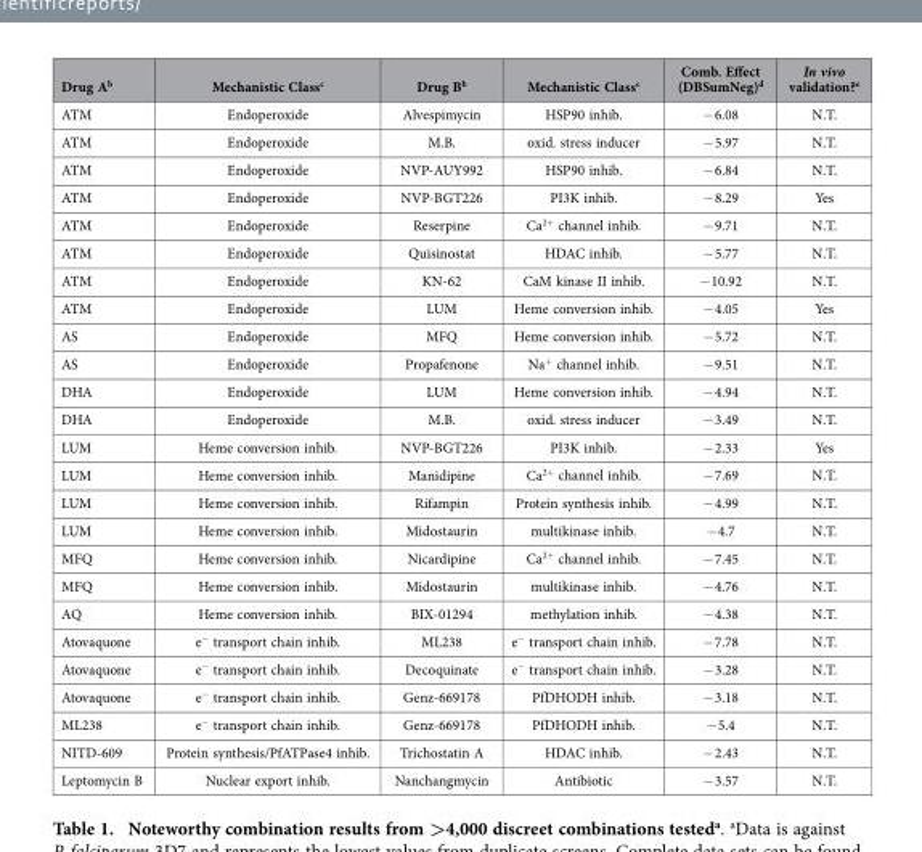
<table><thead><tr><td>Drug A<sup>b</sup></td><td>Mechanistic Class<sup>c</sup></td><td>Drug B<sup>b</sup></td><td>Mechanistic Class<sup>c</sup></td><td>Comb. Effect (DBSumNeg)<sup>d</sup></td><td>In vivo validation?<sup>e</sup></td></tr></thead><tbody><tr><td>ATM</td><td>Endoperoxide</td><td>Alvespimycin</td><td>HSP90 inhib.</td><td>− 6.08</td><td>N.T.</td></tr><tr><td>ATM</td><td>Endoperoxide</td><td>M.B.</td><td>oxid. stress inducer</td><td>− 5.97</td><td>N.T.</td></tr><tr><td>ATM</td><td>Endoperoxide</td><td>NVP-AUY992</td><td>HSP90 inhib.</td><td>− 6.84</td><td>N.T.</td></tr><tr><td>ATM</td><td>Endoperoxide</td><td>NVP-BGT226</td><td>PI3K inhib.</td><td>− 8.29</td><td>Yes</td></tr><tr><td>ATM</td><td>Endoperoxide</td><td>Reserpine</td><td>Ca<sup>2+</sup> channel inhib.</td><td>− 9.71</td><td>N.T.</td></tr><tr><td>ATM</td><td>Endoperoxide</td><td>Quisinostat</td><td>HDAC inhib.</td><td>− 5.77</td><td>N.T.</td></tr><tr><td>ATM</td><td>Endoperoxide</td><td>KN-62</td><td>CaM kinase II inhib.</td><td>− 10.92</td><td>N.T.</td></tr><tr><td>ATM</td><td>Endoperoxide</td><td>LUM</td><td>Heme conversion inhib.</td><td>− 4.05</td><td>Yes</td></tr><tr><td>AS</td><td>Endoperoxide</td><td>MFQ</td><td>Heme conversion inhib.</td><td>− 5.72</td><td>N.T.</td></tr><tr><td>AS</td><td>Endoperoxide</td><td>Propafenone</td><td>Na<sup>+</sup> channel inhib.</td><td>− 9.51</td><td>N.T.</td></tr><tr><td>DHA</td><td>Endoperoxide</td><td>LUM</td><td>Heme conversion inhib.</td><td>− 4.94</td><td>N.T.</td></tr><tr><td>DHA</td><td>Endoperoxide</td><td>M.B.</td><td>oxid. stress inducer</td><td>− 3.49</td><td>N.T.</td></tr><tr><td>LUM</td><td>Heme conversion inhib.</td><td>NVP-BGT226</td><td>PI3K inhib.</td><td>− 2.33</td><td>Yes</td></tr><tr><td>LUM</td><td>Heme conversion inhib.</td><td>Manidipine</td><td>Ca<sup>2+</sup> channel inhib.</td><td>− 7.69</td><td>N.T.</td></tr><tr><td>LUM</td><td>Heme conversion inhib.</td><td>Rifampin</td><td>Protein synthesis inhib.</td><td>− 4.99</td><td>N.T.</td></tr><tr><td>LUM</td><td>Heme conversion inhib.</td><td>Midostaurin</td><td>multikinase inhib.</td><td>− 4.7</td><td>N.T.</td></tr><tr><td>MFQ</td><td>Heme conversion inhib.</td><td>Nicardipine</td><td>Ca<sup>2+</sup> channel inhib.</td><td>− 7.45</td><td>N.T.</td></tr><tr><td>MFQ</td><td>Heme conversion inhib.</td><td>Midostaurin</td><td>multikinase inhib.</td><td>− 4.76</td><td>N.T.</td></tr><tr><td>AQ</td><td>Heme conversion inhib.</td><td>BIX-01294</td><td>methylation inhib.</td><td>− 4.38</td><td>N.T.</td></tr><tr><td>Atovaquone</td><td>e<sup>−</sup> transport chain inhib.</td><td>ML238</td><td>e<sup>−</sup> transport chain inhib.</td><td>− 7.78</td><td>N.T.</td></tr><tr><td>Atovaquone</td><td>e<sup>−</sup> transport chain inhib.</td><td>Decoquinate</td><td>e<sup>−</sup> transport chain inhib.</td><td>− 3.28</td><td>N.T.</td></tr><tr><td>Atovaquone</td><td>e<sup>−</sup> transport chain inhib.</td><td>Genz-669178</td><td>PfDHODH inhib.</td><td>− 3.18</td><td>N.T.</td></tr><tr><td>ML238</td><td>e<sup>−</sup> transport chain inhib.</td><td>Genz-669178</td><td>PfDHODH inhib.</td><td>− 5.4</td><td>N.T.</td></tr><tr><td>NITD-609</td><td>Protein synthesis/PfATPase4 inhib.</td><td>Trichostatin A</td><td>HDAC inhib.</td><td>− 2.43</td><td>N.T.</td></tr><tr><td>Leptomycin B</td><td>Nuclear export inhib.</td><td>Nanchangmycin</td><td>Antibiotic</td><td>− 3.57</td><td>N.T.</td></tr></tbody></table>